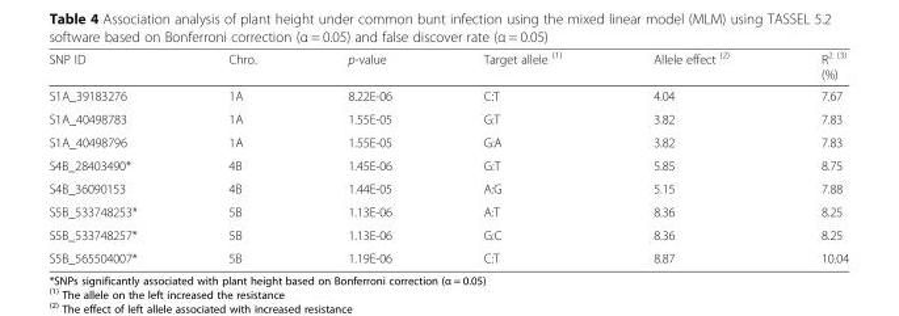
<table><thead><tr><td>SNP ID</td><td>Chro.</td><td>p-value</td><td>Target allele <sup>(1)</sup></td><td>Allele effect <sup>(2)</sup></td><td>R<sup>2 (3)</sup> (%)</td></tr></thead><tbody><tr><td>S1A_39183276</td><td>1A</td><td>8.22E-06</td><td>C:T</td><td>4.04</td><td>7.67</td></tr><tr><td>S1A_40498783</td><td>1A</td><td>1.55E-05</td><td>G:T</td><td>3.82</td><td>7.83</td></tr><tr><td>S1A_40498796</td><td>1A</td><td>1.55E-05</td><td>G:A</td><td>3.82</td><td>7.83</td></tr><tr><td>S4B_28403490*</td><td>4B</td><td>1.45E-06</td><td>G:T</td><td>5.85</td><td>8.75</td></tr><tr><td>S4B_36090153</td><td>4B</td><td>1.44E-05</td><td>A:G</td><td>5.15</td><td>7.88</td></tr><tr><td>S5B_533748253*</td><td>5B</td><td>1.13E-06</td><td>A:T</td><td>8.36</td><td>8.25</td></tr><tr><td>S5B_533748257*</td><td>5B</td><td>1.13E-06</td><td>G:C</td><td>8.36</td><td>8.25</td></tr><tr><td>S5B_565504007*</td><td>5B</td><td>1.19E-06</td><td>C:T</td><td>8.87</td><td>10.04</td></tr></tbody></table>